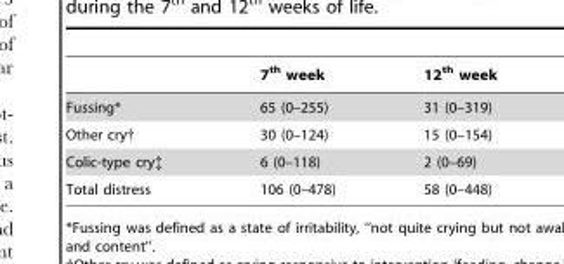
<table><thead><tr><td></td><td>7<sup>th</sup> week</td><td>12<sup>th</sup> week</td></tr></thead><tbody><tr><td>Fussing*</td><td>65 (0–255)</td><td>31 (0–319)</td></tr><tr><td>Other cry†</td><td>30 (0–124)</td><td>15 (0–154)</td></tr><tr><td>Colic-type cry‡</td><td>6 (0–118)</td><td>2 (0–69)</td></tr><tr><td>Total distress</td><td>106 (0–478)</td><td>58 (0–448)</td></tr></tbody></table>